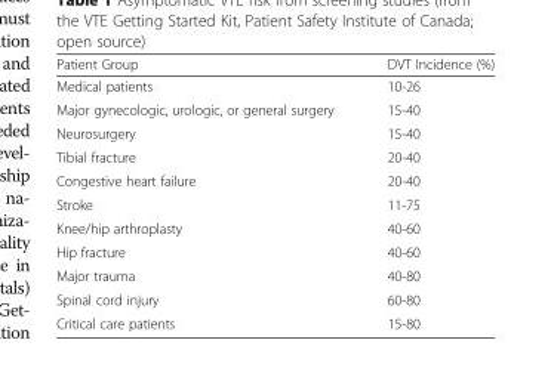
<table><thead><tr><td>Patient Group</td><td>DVT Incidence (%)</td></tr></thead><tbody><tr><td>Medical patients</td><td>10-26</td></tr><tr><td>Major gynecologic, urologic, or general surgery</td><td>15-40</td></tr><tr><td>Neurosurgery</td><td>15-40</td></tr><tr><td>Tibial fracture</td><td>20-40</td></tr><tr><td>Congestive heart failure</td><td>20-40</td></tr><tr><td>Stroke</td><td>11-75</td></tr><tr><td>Knee/hip arthroplasty</td><td>40-60</td></tr><tr><td>Hip fracture</td><td>40-60</td></tr><tr><td>Major trauma</td><td>40-80</td></tr><tr><td>Spinal cord injury</td><td>60-80</td></tr><tr><td>Critical care patients</td><td>15-80</td></tr></tbody></table>